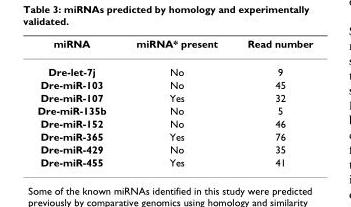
<table><thead><tr><td>miRNA</td><td>miRNA* present</td><td>Read number</td></tr></thead><tbody><tr><td>Dre-let-7j</td><td>No</td><td>9</td></tr><tr><td>Dre-miR-103</td><td>No</td><td>45</td></tr><tr><td>Dre-miR-107</td><td>Yes</td><td>32</td></tr><tr><td>Dre-miR-135b</td><td>No</td><td>5</td></tr><tr><td>Dre-miR-152</td><td>No</td><td>46</td></tr><tr><td>Dre-miR-365</td><td>Yes</td><td>76</td></tr><tr><td>Dre-miR-429</td><td>No</td><td>35</td></tr><tr><td>Dre-miR-455</td><td>Yes</td><td>41</td></tr></tbody></table>